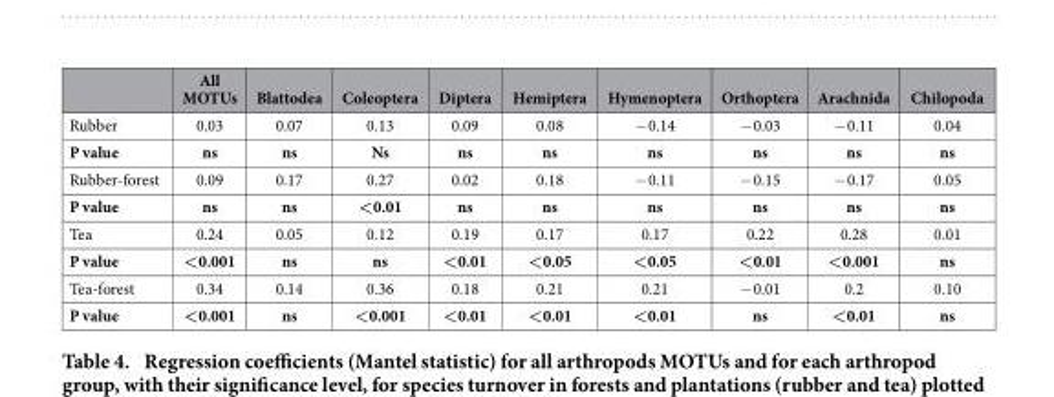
<table><thead><tr><td></td><td>All MOTUs</td><td>Blattodea</td><td>Coleoptera</td><td>Diptera</td><td>Hemiptera</td><td>Hymenoptera</td><td>Orthoptera</td><td>Arachnida</td><td>Chilopoda</td></tr></thead><tbody><tr><td>Rubber</td><td>0.03</td><td>0.07</td><td>0.13</td><td>0.09</td><td>0.08</td><td>− 0.14</td><td>− 0.03</td><td>− 0.11</td><td>0.04</td></tr><tr><td>P value</td><td>ns</td><td>ns</td><td>Ns</td><td>ns</td><td>ns</td><td>ns</td><td>ns</td><td>ns</td><td>ns</td></tr><tr><td>Rubber-forest</td><td>0.09</td><td>0.17</td><td>0.27</td><td>0.02</td><td>0.18</td><td>− 0.11</td><td>− 0.15</td><td>− 0.17</td><td>0.05</td></tr><tr><td>P value</td><td>ns</td><td>ns</td><td>&lt;0.01</td><td>ns</td><td>ns</td><td>ns</td><td>ns</td><td>ns</td><td>ns</td></tr><tr><td>Tea</td><td>0.24</td><td>0.05</td><td>0.12</td><td>0.19</td><td>0.17</td><td>0.17</td><td>0.22</td><td>0.28</td><td>0.01</td></tr><tr><td>P value</td><td>&lt;0.001</td><td>ns</td><td>ns</td><td>&lt;0.01</td><td>&lt;0.05</td><td>&lt;0.05</td><td>&lt;0.01</td><td>&lt;0.001</td><td>ns</td></tr><tr><td>Tea-forest</td><td>0.34</td><td>0.14</td><td>0.36</td><td>0.18</td><td>0.21</td><td>0.21</td><td>− 0.01</td><td>0.2</td><td>0.10</td></tr><tr><td>P value</td><td>&lt;0.001</td><td>ns</td><td>&lt;0.001</td><td>&lt;0.01</td><td>&lt;0.01</td><td>&lt;0.01</td><td>ns</td><td>&lt;0.01</td><td>ns</td></tr></tbody></table>